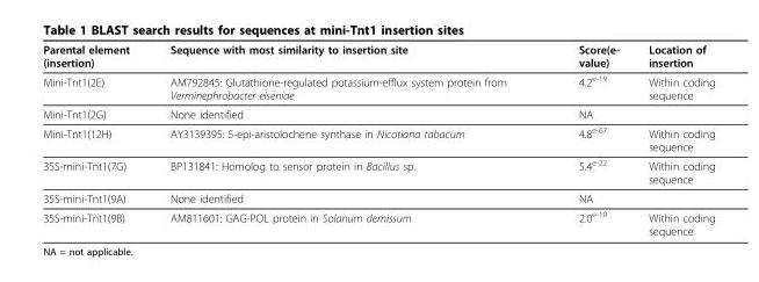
<table><thead><tr><td>Parental element (insertion)</td><td>Sequence with most similarity to insertion site</td><td>Score(e- value)</td><td>Location of insertion</td></tr></thead><tbody><tr><td>Mini-Tnt1(2E)</td><td>AM792845: Glutathione-regulated potassium-efflux system protein from Verminephrobacter eiseniae</td><td>4.2<sup>e-19</sup></td><td>Within coding sequence</td></tr><tr><td>Mini-Tnt1(2G)</td><td>None identified</td><td colspan="2">NA</td></tr><tr><td>Mini-Tnt1(12H)</td><td>AY3139395: 5-epi-aristolochene synthase in Nicotiana tabacum</td><td>4.8<sup>e-67</sup></td><td>Within coding sequence</td></tr><tr><td>35S-mini-Tnt1(7G)</td><td>BP131841: Homolog to sensor protein in Bacillus sp.</td><td>5.4<sup>e-22</sup></td><td>Within coding sequence</td></tr><tr><td>35S-mini-Tnt1(9A)</td><td>None identified</td><td colspan="2">NA</td></tr><tr><td>35S-mini-Tnt1(9B)</td><td>AM811601: GAG-POL protein in Solanum demissum</td><td>2.0<sup>e-10</sup></td><td>Within coding sequence</td></tr></tbody></table>